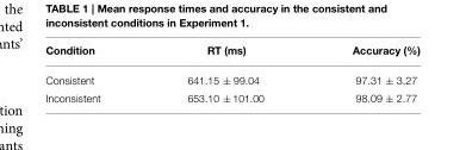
<table><thead><tr><td>Condition</td><td>RT (ms)</td><td>Accuracy (%)</td></tr></thead><tbody><tr><td>Consistent</td><td>641.15 ± 99.04</td><td>97.31 ± 3.27</td></tr><tr><td>Inconsistent</td><td>653.10 ± 101.00</td><td>98.09 ± 2.77</td></tr></tbody></table>